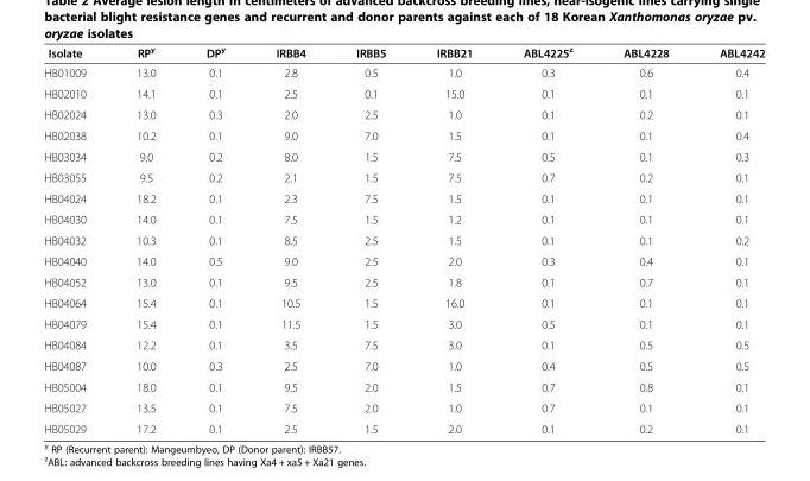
<table><thead><tr><td>Isolate</td><td>RP<sup>y</sup></td><td>DP<sup>y</sup></td><td>IRBB4</td><td>IRBB5</td><td>IRBB21</td><td>ABL4225<sup>z</sup></td><td>ABL4228</td><td>ABL4242</td></tr></thead><tbody><tr><td>HB01009</td><td>13.0</td><td>0.1</td><td>2.8</td><td>0.5</td><td>1.0</td><td>0.3</td><td>0.6</td><td>0.4</td></tr><tr><td>HB02010</td><td>14.1</td><td>0.1</td><td>2.5</td><td>0.1</td><td>15.0</td><td>0.1</td><td>0.1</td><td>0.1</td></tr><tr><td>HB02024</td><td>13.0</td><td>0.3</td><td>2.0</td><td>2.5</td><td>1.0</td><td>0.1</td><td>0.2</td><td>0.1</td></tr><tr><td>HB02038</td><td>10.2</td><td>0.1</td><td>9.0</td><td>7.0</td><td>1.5</td><td>0.1</td><td>0.1</td><td>0.4</td></tr><tr><td>HB03034</td><td>9.0</td><td>0.2</td><td>8.0</td><td>1.5</td><td>7.5</td><td>0.5</td><td>0.1</td><td>0.3</td></tr><tr><td>HB03055</td><td>9.5</td><td>0.2</td><td>2.1</td><td>1.5</td><td>7.5</td><td>0.7</td><td>0.2</td><td>0.1</td></tr><tr><td>HB04024</td><td>18.2</td><td>0.1</td><td>2.3</td><td>7.5</td><td>1.5</td><td>0.1</td><td>0.1</td><td>0.1</td></tr><tr><td>HB04030</td><td>14.0</td><td>0.1</td><td>7.5</td><td>1.5</td><td>1.2</td><td>0.1</td><td>0.1</td><td>0.1</td></tr><tr><td>HB04032</td><td>10.3</td><td>0.1</td><td>8.5</td><td>2.5</td><td>1.5</td><td>0.1</td><td>0.1</td><td>0.2</td></tr><tr><td>HB04040</td><td>14.0</td><td>0.5</td><td>9.0</td><td>2.5</td><td>2.0</td><td>0.3</td><td>0.4</td><td>0.1</td></tr><tr><td>HB04052</td><td>13.0</td><td>0.1</td><td>9.5</td><td>2.5</td><td>1.8</td><td>0.1</td><td>0.7</td><td>0.1</td></tr><tr><td>HB04064</td><td>15.4</td><td>0.1</td><td>10.5</td><td>1.5</td><td>16.0</td><td>0.1</td><td>0.1</td><td>0.1</td></tr><tr><td>HB04079</td><td>15.4</td><td>0.1</td><td>11.5</td><td>1.5</td><td>3.0</td><td>0.5</td><td>0.1</td><td>0.1</td></tr><tr><td>HB04084</td><td>12.2</td><td>0.1</td><td>3.5</td><td>7.5</td><td>3.0</td><td>0.1</td><td>0.5</td><td>0.5</td></tr><tr><td>HB04087</td><td>10.0</td><td>0.3</td><td>2.5</td><td>7.0</td><td>1.0</td><td>0.4</td><td>0.5</td><td>0.5</td></tr><tr><td>HB05004</td><td>18.0</td><td>0.1</td><td>9.5</td><td>2.0</td><td>1.5</td><td>0.7</td><td>0.8</td><td>0.1</td></tr><tr><td>HB05027</td><td>13.5</td><td>0.1</td><td>7.5</td><td>2.0</td><td>1.0</td><td>0.7</td><td>0.1</td><td>0.1</td></tr><tr><td>HB05029</td><td>17.2</td><td>0.1</td><td>2.5</td><td>1.5</td><td>2.0</td><td>0.1</td><td>0.2</td><td>0.1</td></tr></tbody></table>